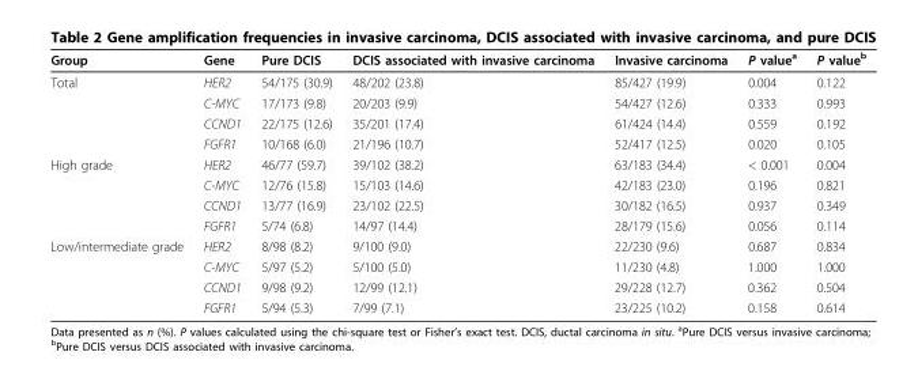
<table><thead><tr><td>Group</td><td>Gene</td><td>Pure DCIS</td><td>DCIS associated with invasive carcinoma</td><td>Invasive carcinoma</td><td>P value<sup>a</sup></td><td>P value<sup>b</sup></td></tr></thead><tbody><tr><td rowspan="4">Total</td><td>HER2</td><td>54/175 (30.9)</td><td>48/202 (23.8)</td><td>85/427 (19.9)</td><td>0.004</td><td>0.122</td></tr><tr><td>C-MYC</td><td>17/173 (9.8)</td><td>20/203 (9.9)</td><td>54/427 (12.6)</td><td>0.333</td><td>0.993</td></tr><tr><td>CCND1</td><td>22/175 (12.6)</td><td>35/201 (17.4)</td><td>61/424 (14.4)</td><td>0.559</td><td>0.192</td></tr><tr><td>FGFR1</td><td>10/168 (6.0)</td><td>21/196 (10.7)</td><td>52/417 (12.5)</td><td>0.020</td><td>0.105</td></tr><tr><td rowspan="4">High grade</td><td>HER2</td><td>46/77 (59.7)</td><td>39/102 (38.2)</td><td>63/183 (34.4)</td><td>&lt; 0.001</td><td>0.004</td></tr><tr><td>C-MYC</td><td>12/76 (15.8)</td><td>15/103 (14.6)</td><td>42/183 (23.0)</td><td>0.196</td><td>0.821</td></tr><tr><td>CCND1</td><td>13/77 (16.9)</td><td>23/102 (22.5)</td><td>30/182 (16.5)</td><td>0.937</td><td>0.349</td></tr><tr><td>FGFR1</td><td>5/74 (6.8)</td><td>14/97 (14.4)</td><td>28/179 (15.6)</td><td>0.056</td><td>0.114</td></tr><tr><td rowspan="4">Low/intermediate grade</td><td>HER2</td><td>8/98 (8.2)</td><td>9/100 (9.0)</td><td>22/230 (9.6)</td><td>0.687</td><td>0.834</td></tr><tr><td>C-MYC</td><td>5/97 (5.2)</td><td>5/100 (5.0)</td><td>11/230 (4.8)</td><td>1.000</td><td>1.000</td></tr><tr><td>CCND1</td><td>9/98 (9.2)</td><td>12/99 (12.1)</td><td>29/228 (12.7)</td><td>0.362</td><td>0.504</td></tr><tr><td>FGFR1</td><td>5/94 (5.3)</td><td>7/99 (7.1)</td><td>23/225 (10.2)</td><td>0.158</td><td>0.614</td></tr></tbody></table>